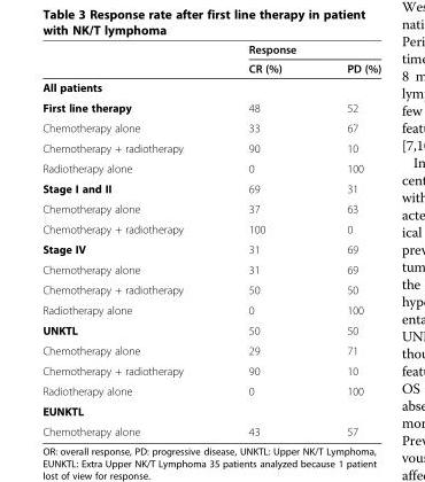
<table><thead><tr><td rowspan="2"></td><td colspan="2">Response</td></tr><tr><td>CR (%)</td><td>PD (%)</td></tr></thead><tbody><tr><td colspan="3">All patients</td></tr><tr><td>First line therapy</td><td>48</td><td>52</td></tr><tr><td>Chemotherapy alone</td><td>33</td><td>67</td></tr><tr><td>Chemotherapy + radiotherapy</td><td>90</td><td>10</td></tr><tr><td>Radiotherapy alone</td><td>0</td><td>100</td></tr><tr><td>Stage I and II</td><td>69</td><td>31</td></tr><tr><td>Chemotherapy alone</td><td>37</td><td>63</td></tr><tr><td>Chemotherapy + radiotherapy</td><td>100</td><td>0</td></tr><tr><td>Stage IV</td><td>31</td><td>69</td></tr><tr><td>Chemotherapy alone</td><td>31</td><td>69</td></tr><tr><td>Chemotherapy + radiotherapy</td><td>50</td><td>50</td></tr><tr><td>Radiotherapy alone</td><td>0</td><td>100</td></tr><tr><td>UNKTL</td><td>50</td><td>50</td></tr><tr><td>Chemotherapy alone</td><td>29</td><td>71</td></tr><tr><td>Chemotherapy + radiotherapy</td><td>90</td><td>10</td></tr><tr><td>Radiotherapy alone</td><td>0</td><td>100</td></tr><tr><td colspan="3">EUNKTL</td></tr><tr><td>Chemotherapy alone</td><td>43</td><td>57</td></tr></tbody></table>